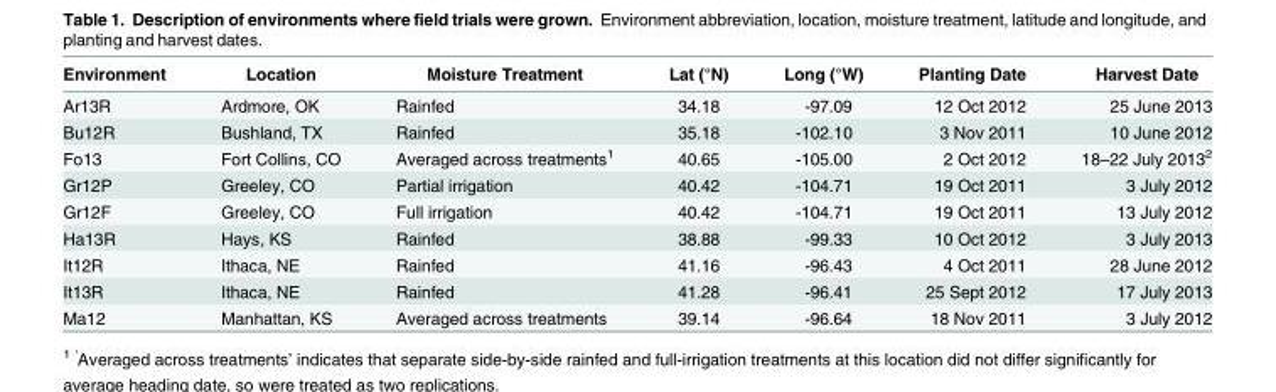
<table><thead><tr><td>Environment</td><td>Location</td><td>Moisture Treatment</td><td>Lat (°N)</td><td>Long (°W)</td><td>Planting Date</td><td>Harvest Date</td></tr></thead><tbody><tr><td>Ar13R</td><td>Ardmore, OK</td><td>Rainfed</td><td>34.18</td><td>-97.09</td><td>12 Oct 2012</td><td>25 June 2013</td></tr><tr><td>Bu12R</td><td>Bushland, TX</td><td>Rainfed</td><td>35.18</td><td>-102.10</td><td>3 Nov 2011</td><td>10 June 2012</td></tr><tr><td>Fo13</td><td>Fort Collins, CO</td><td>Averaged across treatments<sup>1</sup></td><td>40.65</td><td>-105.00</td><td>2 Oct 2012</td><td>18–22 July 2013<sup>2</sup></td></tr><tr><td>Gr12P</td><td>Greeley, CO</td><td>Partial irrigation</td><td>40.42</td><td>-104.71</td><td>19 Oct 2011</td><td>3 July 2012</td></tr><tr><td>Gr12F</td><td>Greeley, CO</td><td>Full irrigation</td><td>40.42</td><td>-104.71</td><td>19 Oct 2011</td><td>13 July 2012</td></tr><tr><td>Ha13R</td><td>Hays, KS</td><td>Rainfed</td><td>38.88</td><td>-99.33</td><td>10 Oct 2012</td><td>3 July 2013</td></tr><tr><td>It12R</td><td>Ithaca, NE</td><td>Rainfed</td><td>41.16</td><td>-96.43</td><td>4 Oct 2011</td><td>28 June 2012</td></tr><tr><td>It13R</td><td>Ithaca, NE</td><td>Rainfed</td><td>41.28</td><td>-96.41</td><td>25 Sept 2012</td><td>17 July 2013</td></tr><tr><td>Ma12</td><td>Manhattan, KS</td><td>Averaged across treatments</td><td>39.14</td><td>-96.64</td><td>18 Nov 2011</td><td>3 July 2012</td></tr></tbody></table>